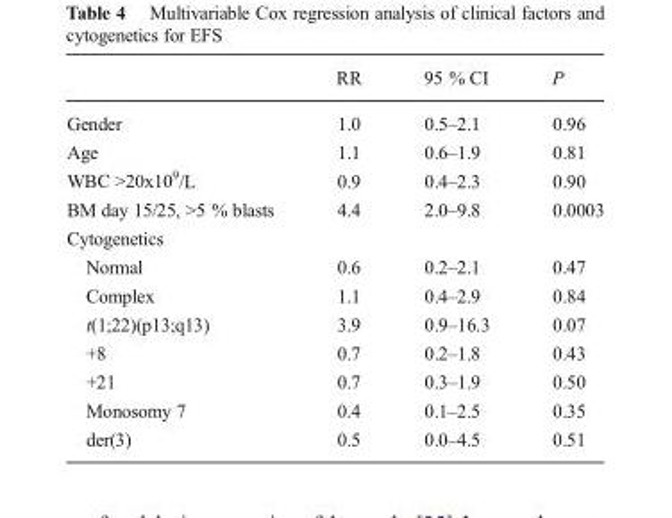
<table><thead><tr><td></td><td>RR</td><td>95 % CI</td><td>P</td></tr></thead><tbody><tr><td>Gender</td><td>1.0</td><td>0.5–2.1</td><td>0.96</td></tr><tr><td>Age</td><td>1.1</td><td>0.6–1.9</td><td>0.81</td></tr><tr><td>WBC &gt;20x10<sup>9</sup>/L</td><td>0.9</td><td>0.4–2.3</td><td>0.90</td></tr><tr><td>BM day 15/25, &gt;5 % blasts</td><td>4.4</td><td>2.0–9.8</td><td>0.0003</td></tr><tr><td colspan="4">Cytogenetics</td></tr><tr><td>Normal</td><td>0.6</td><td>0.2–2.1</td><td>0.47</td></tr><tr><td>Complex</td><td>1.1</td><td>0.4–2.9</td><td>0.84</td></tr><tr><td>t(1;22)(p13;q13)</td><td>3.9</td><td>0.9–16.3</td><td>0.07</td></tr><tr><td>+8</td><td>0.7</td><td>0.2–1.8</td><td>0.43</td></tr><tr><td>+21</td><td>0.7</td><td>0.3–1.9</td><td>0.50</td></tr><tr><td>Monosomy 7</td><td>0.4</td><td>0.1–2.5</td><td>0.35</td></tr><tr><td>der(3)</td><td>0.5</td><td>0.0–4.5</td><td>0.51</td></tr></tbody></table>